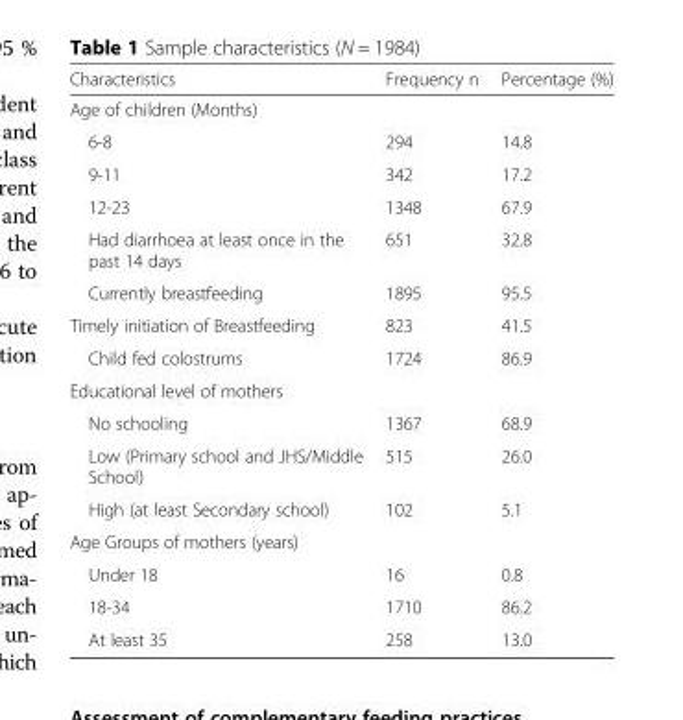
<table><thead><tr><td>Characteristics</td><td>Frequency n</td><td>Percentage (%)</td></tr></thead><tbody><tr><td colspan="3">Age of children (Months)</td></tr><tr><td>6-8</td><td>294</td><td>14.8</td></tr><tr><td>9-11</td><td>342</td><td>17.2</td></tr><tr><td>12-23</td><td>1348</td><td>67.9</td></tr><tr><td>Had diarrhoea at least once in the past 14 days</td><td>651</td><td>32.8</td></tr><tr><td>Currently breastfeeding</td><td>1895</td><td>95.5</td></tr><tr><td>Timely initiation of Breastfeeding</td><td>823</td><td>41.5</td></tr><tr><td>Child fed colostrums</td><td>1724</td><td>86.9</td></tr><tr><td colspan="3">Educational level of mothers</td></tr><tr><td>No schooling</td><td>1367</td><td>68.9</td></tr><tr><td>Low (Primary school and JHS/Middle School)</td><td>515</td><td>26.0</td></tr><tr><td>High (at least Secondary school)</td><td>102</td><td>5.1</td></tr><tr><td colspan="3">Age Groups of mothers (years)</td></tr><tr><td>Under 18</td><td>16</td><td>0.8</td></tr><tr><td>18-34</td><td>1710</td><td>86.2</td></tr><tr><td>At least 35</td><td>258</td><td>13.0</td></tr></tbody></table>